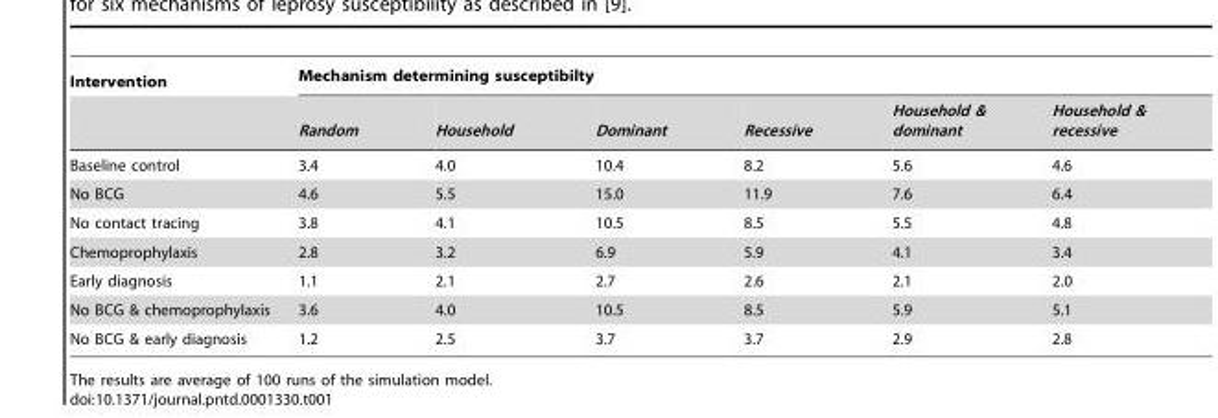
<table><thead><tr><td rowspan="2">Intervention</td><td colspan="6">Mechanism determining susceptibilty</td></tr><tr><td>Random</td><td>Household</td><td>Dominant</td><td>Recessive</td><td>Household &amp; dominant</td><td>Household &amp; recessive</td></tr></thead><tbody><tr><td>Baseline control</td><td>3.4</td><td>4.0</td><td>10.4</td><td>8.2</td><td>5.6</td><td>4.6</td></tr><tr><td>No BCG</td><td>4.6</td><td>5.5</td><td>15.0</td><td>11.9</td><td>7.6</td><td>6.4</td></tr><tr><td>No contact tracing</td><td>3.8</td><td>4.1</td><td>10.5</td><td>8.5</td><td>5.5</td><td>4.8</td></tr><tr><td>Chemoprophylaxis</td><td>2.8</td><td>3.2</td><td>6.9</td><td>5.9</td><td>4.1</td><td>3.4</td></tr><tr><td>Early diagnosis</td><td>1.1</td><td>2.1</td><td>2.7</td><td>2.6</td><td>2.1</td><td>2.0</td></tr><tr><td>No BCG &amp; chemoprophylaxis</td><td>3.6</td><td>4.0</td><td>10.5</td><td>8.5</td><td>5.9</td><td>5.1</td></tr><tr><td>No BCG &amp; early diagnosis</td><td>1.2</td><td>2.5</td><td>3.7</td><td>3.7</td><td>2.9</td><td>2.8</td></tr></tbody></table>